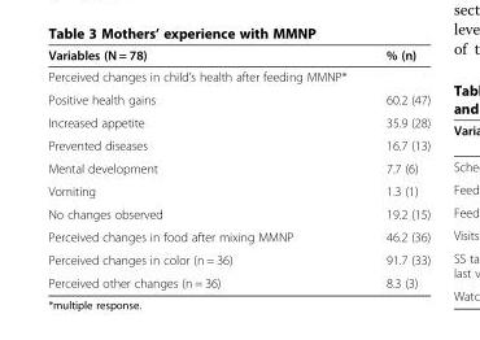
<table><thead><tr><td>Variables (N = 78)</td><td>% (n)</td></tr></thead><tbody><tr><td colspan="2">Perceived changes in child’s health after feeding MMNP*</td></tr><tr><td>Positive health gains</td><td>60.2 (47)</td></tr><tr><td>Increased appetite</td><td>35.9 (28)</td></tr><tr><td>Prevented diseases</td><td>16.7 (13)</td></tr><tr><td>Mental development</td><td>7.7 (6)</td></tr><tr><td>Vomiting</td><td>1.3 (1)</td></tr><tr><td>No changes observed</td><td>19.2 (15)</td></tr><tr><td>Perceived changes in food after mixing MMNP</td><td>46.2 (36)</td></tr><tr><td>Perceived changes in color (n = 36)</td><td>91.7 (33)</td></tr><tr><td>Perceived other changes (n = 36)</td><td>8.3 (3)</td></tr></tbody></table>